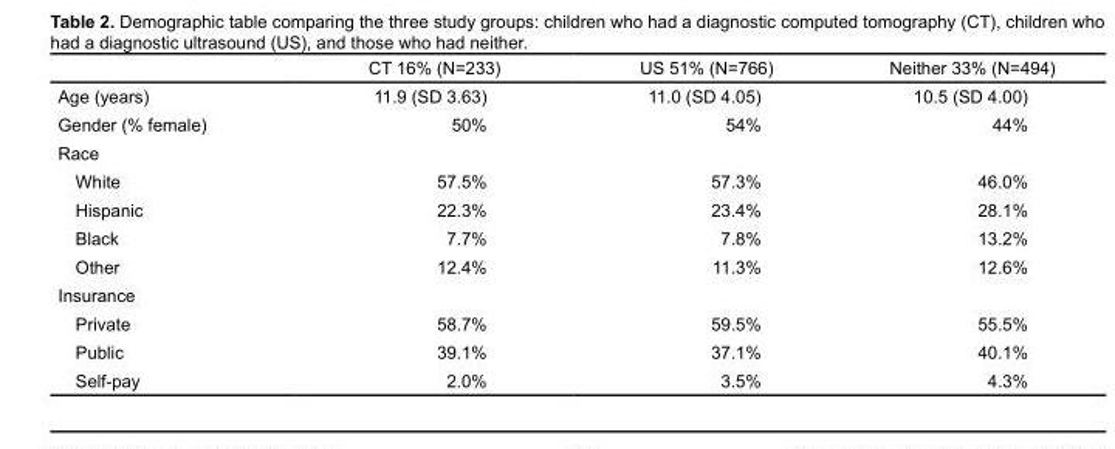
<table><thead><tr><td></td><td>CT 16% (N=233)</td><td>US 51% (N=766)</td><td>Neither 33% (N=494)</td></tr></thead><tbody><tr><td>Age (years)</td><td>11.9 (SD 3.63)</td><td>11.0 (SD 4.05)</td><td>10.5 (SD 4.00)</td></tr><tr><td>Gender (% female)</td><td>50%</td><td>54%</td><td>44%</td></tr><tr><td colspan="4">Race</td></tr><tr><td>White</td><td>57.5%</td><td>57.3%</td><td>46.0%</td></tr><tr><td>Hispanic</td><td>22.3%</td><td>23.4%</td><td>28.1%</td></tr><tr><td>Black</td><td>7.7%</td><td>7.8%</td><td>13.2%</td></tr><tr><td>Other</td><td>12.4%</td><td>11.3%</td><td>12.6%</td></tr><tr><td colspan="4">Insurance</td></tr><tr><td>Private</td><td>58.7%</td><td>59.5%</td><td>55.5%</td></tr><tr><td>Public</td><td>39.1%</td><td>37.1%</td><td>40.1%</td></tr><tr><td>Self-pay</td><td>2.0%</td><td>3.5%</td><td>4.3%</td></tr></tbody></table>